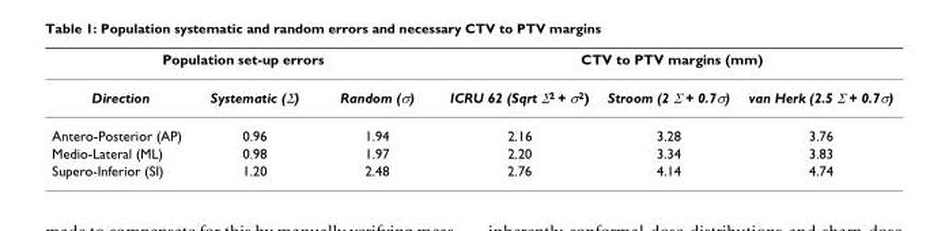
<table><thead><tr><td colspan="3">Population set-up errors</td><td colspan="3">CTV to PTV margins (mm)</td></tr><tr><td>Direction</td><td>Systematic (Σ)</td><td>Random (σ)</td><td>ICRU 62 (Sqrt Σ<sup>2</sup> + σ<sup>2</sup>)</td><td>Stroom (2 Σ + 0.7σ)</td><td>van Herk (2.5 Σ + 0.7σ)</td></tr></thead><tbody><tr><td>Antero-Posterior (AP)</td><td>0.96</td><td>1.94</td><td>2.16</td><td>3.28</td><td>3.76</td></tr><tr><td>Medio-Lateral (ML)</td><td>0.98</td><td>1.97</td><td>2.20</td><td>3.34</td><td>3.83</td></tr><tr><td>Supero-Inferior (SI)</td><td>1.20</td><td>2.48</td><td>2.76</td><td>4.14</td><td>4.74</td></tr></tbody></table>